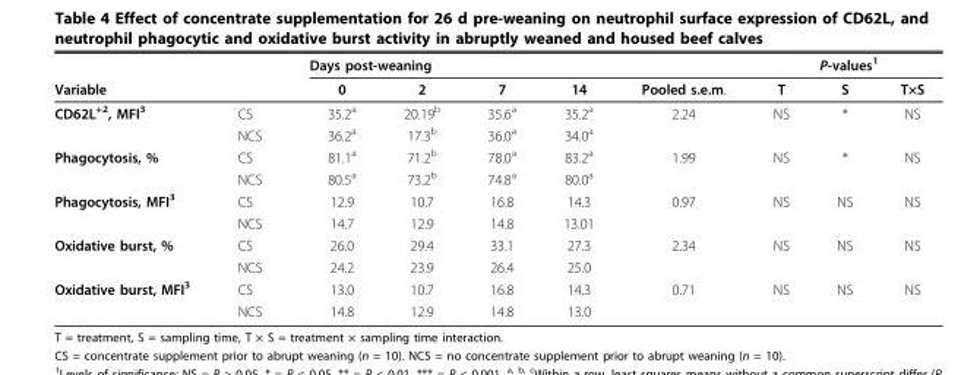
<table><thead><tr><td rowspan="2">Variable</td><td rowspan="2"></td><td colspan="4">Days post-weaning</td><td rowspan="2">Pooled s.e.m.</td><td colspan="3">P-values<sup>1</sup></td></tr><tr><td>0</td><td>2</td><td>7</td><td>14</td><td>T</td><td>S</td><td>T×S</td></tr></thead><tbody><tr><td rowspan="2">CD62L<sup>+2</sup>, MFI<sup>3</sup></td><td>CS</td><td>35.2<sup>a</sup></td><td>20.19<sup>b</sup></td><td>35.6<sup>a</sup></td><td>35.2<sup>a</sup></td><td>2.24</td><td>NS</td><td>*</td><td>NS</td></tr><tr><td>NCS</td><td>36.2<sup>a</sup></td><td>17.3<sup>b</sup></td><td>36.0<sup>a</sup></td><td>34.0<sup>a</sup></td><td></td><td></td><td></td><td></td></tr><tr><td rowspan="2">Phagocytosis, %</td><td>CS</td><td>81.1<sup>a</sup></td><td>71.2<sup>b</sup></td><td>78.0<sup>a</sup></td><td>83.2<sup>a</sup></td><td>1.99</td><td>NS</td><td>*</td><td>NS</td></tr><tr><td>NCS</td><td>80.5<sup>a</sup></td><td>73.2<sup>b</sup></td><td>74.8<sup>a</sup></td><td>80.0<sup>a</sup></td><td></td><td></td><td></td><td></td></tr><tr><td rowspan="2">Phagocytosis, MFI<sup>3</sup></td><td>CS</td><td>12.9</td><td>10.7</td><td>16.8</td><td>14.3</td><td>0.97</td><td>NS</td><td>NS</td><td>NS</td></tr><tr><td>NCS</td><td>14.7</td><td>12.9</td><td>14.8</td><td>13.01</td><td></td><td></td><td></td><td></td></tr><tr><td rowspan="2">Oxidative burst, %</td><td>CS</td><td>26.0</td><td>29.4</td><td>33.1</td><td>27.3</td><td>2.34</td><td>NS</td><td>NS</td><td>NS</td></tr><tr><td>NCS</td><td>24.2</td><td>23.9</td><td>26.4</td><td>25.0</td><td></td><td></td><td></td><td></td></tr><tr><td rowspan="2">Oxidative burst, MFI<sup>3</sup></td><td>CS</td><td>13.0</td><td>10.7</td><td>16.8</td><td>14.3</td><td>0.71</td><td>NS</td><td>NS</td><td>NS</td></tr><tr><td>NCS</td><td>14.8</td><td>12.9</td><td>14.8</td><td>13.0</td><td></td><td></td><td></td><td></td></tr></tbody></table>